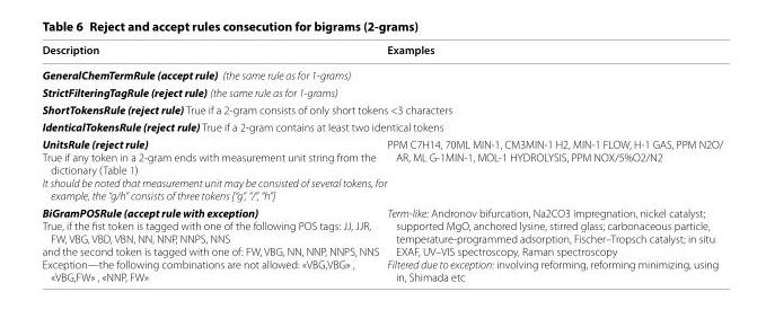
<table><thead><tr><td>Description</td><td>Examples</td></tr></thead><tbody><tr><td colspan="2">GeneralChemTermRule (accept rule) (the same rule as for 1-grams)</td></tr><tr><td colspan="2">StrictFilteringTagRule (reject rule) (the same rule as for 1-grams)</td></tr><tr><td colspan="2">ShortTokensRule (reject rule) True if a 2-gram consists of only short tokens &lt;3 characters</td></tr><tr><td colspan="2">IdenticalTokensRule (reject rule) True if a 2-gram contains at least two identical tokens</td></tr><tr><td>UnitsRule (reject rule) True if any token in a 2-gram ends with measurement unit string from the dictionary (Table 1) It should be noted that measurement unit may be consisted of several tokens, for example, the “g/h” consists of three tokens [“g”, “/”, “h”]</td><td>PPM C7H14, 70ML MIN-1, CM3MIN-1 H2, MIN-1 FLOW, H-1 GAS, PPM N2O/ AR, ML G-1MIN-1, MOL-1 HYDROLYSIS, PPM NOX/5%O2/N2</td></tr><tr><td>BiGramPOSRule (accept rule with exception) True, if the fist token is tagged with one of the following POS tags: JJ, JJR, FW, VBG, VBD, VBN, NN, NNP, NNPS, NNS and the second token is tagged with one of: FW, VBG, NN, NNP, NNPS, NNS Exception—the following combinations are not allowed: «VBG,VBG» , «VBG,FW» , «NNP, FW»</td><td>Term-like: Andronov bifurcation, Na2CO3 impregnation, nickel catalyst; supported MgO, anchored lysine, stirred glass; carbonaceous particle, temperature-programmed adsorption, Fischer–Tropsch catalyst; in situ EXAF, UV–VIS spectroscopy, Raman spectroscopy Filtered due to exception: involving reforming, reforming minimizing, using in, Shimada etc</td></tr></tbody></table>